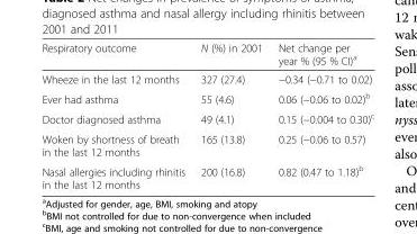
<table><thead><tr><td>Respiratory outcome</td><td>N (%) in 2001</td><td>Net change per year % (95 % CI)<sup>a</sup></td></tr></thead><tbody><tr><td>Wheeze in the last 12 months</td><td>327 (27.4)</td><td>−0.34 (−0.71 to 0.02)</td></tr><tr><td>Ever had asthma</td><td>55 (4.6)</td><td>0.06 (−0.06 to 0.02)<sup>b</sup></td></tr><tr><td>Doctor diagnosed asthma</td><td>49 (4.1)</td><td>0.15 (−0.004 to 0.30)<sup>c</sup></td></tr><tr><td>Woken by shortness of breath in the last 12 months</td><td>165 (13.8)</td><td>0.25 (−0.06 to 0.57)</td></tr><tr><td>Nasal allergies including rhinitis in the last 12 months</td><td>200 (16.8)</td><td>0.82 (0.47 to 1.18)<sup>b</sup></td></tr></tbody></table>